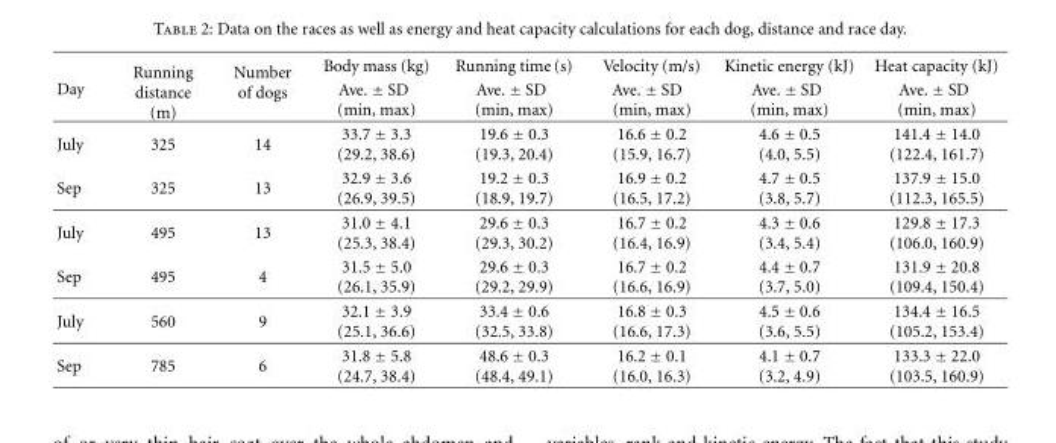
<table><thead><tr><td rowspan="2">Day</td><td rowspan="2">Running distance (m)</td><td rowspan="2">Number of dogs</td><td rowspan="2">Body mass (kg) Ave. ± SD (min, max)</td><td rowspan="2">Running time (s) Ave. ± SD (min, max)</td><td rowspan="2">Velocity (m/s) Ave. ± SD (min, max)</td><td rowspan="2">Kinetic energy (kJ) Ave. ± SD (min, max)</td><td rowspan="2">Heat capacity (kJ) Ave. ± SD (min, max)</td></tr><tr></tr></thead><tbody><tr><td>July</td><td>325</td><td>14</td><td>33.7 ± 3.3 (29.2, 38.6)</td><td>19.6 ± 0.3 (19.3, 20.4)</td><td>16.6 ± 0.2 (15.9, 16.7)</td><td>4.6 ± 0.5 (4.0, 5.5)</td><td>141.4 ± 14.0 (122.4, 161.7)</td></tr><tr><td>Sep</td><td>325</td><td>13</td><td>32.9 ± 3.6 (26.9, 39.5)</td><td>19.2 ± 0.3 (18.9, 19.7)</td><td>16.9 ± 0.2 (16.5, 17.2)</td><td>4.7 ± 0.5 (3.8, 5.7)</td><td>137.9 ± 15.0 (112.3, 165.5)</td></tr><tr><td>July</td><td>495</td><td>13</td><td>31.0 ± 4.1 (25.3, 38.4)</td><td>29.6 ± 0.3 (29.3, 30.2)</td><td>16.7 ± 0.2 (16.4, 16.9)</td><td>4.3 ± 0.6 (3.4, 5.4)</td><td>129.8 ± 17.3 (106.0, 160.9)</td></tr><tr><td>Sep</td><td>495</td><td>4</td><td>31.5 ± 5.0 (26.1, 35.9)</td><td>29.6 ± 0.3 (29.2, 29.9)</td><td>16.7 ± 0.2 (16.6, 16.9)</td><td>4.4 ± 0.7 (3.7, 5.0)</td><td>131.9 ± 20.8 (109.4, 150.4)</td></tr><tr><td>July</td><td>560</td><td>9</td><td>32.1 ± 3.9 (25.1, 36.6)</td><td>33.4 ± 0.6 (32.5, 33.8)</td><td>16.8 ± 0.3 (16.6, 17.3)</td><td>4.5 ± 0.6 (3.6, 5.5)</td><td>134.4 ± 16.5 (105.2, 153.4)</td></tr><tr><td>Sep</td><td>785</td><td>6</td><td>31.8 ± 5.8 (24.7, 38.4)</td><td>48.6 ± 0.3 (48.4, 49.1)</td><td>16.2 ± 0.1 (16.0, 16.3)</td><td>4.1 ± 0.7 (3.2, 4.9)</td><td>133.3 ± 22.0 (103.5, 160.9)</td></tr></tbody></table>